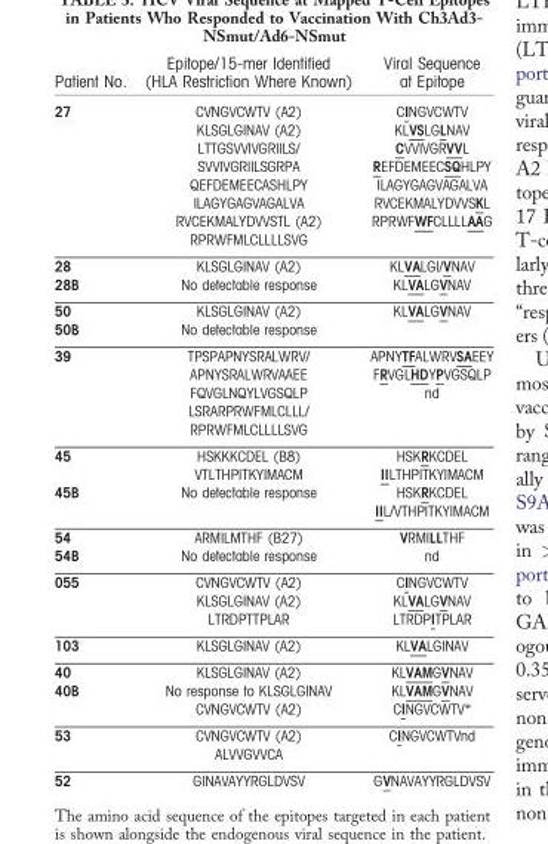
<table><thead><tr><td>Patient No.</td><td>Epitope/15-mer Identified (HLA Restriction Where Known)</td><td>Viral Sequence at Epitope</td></tr></thead><tbody><tr><td>27</td><td>CVNGVCWTV (A2) KLSGLGINAV (A2) LTTGSVVIVGRIILS/ SVVIVGRIILSGRPA QEFDEMEECASHLPY ILAGYGAGVAGALVA RVCEKMALYDVVSTL (A2) RPRWFMLCLLLLSVG</td><td>CINGVCWTV KLVSLGLNAV CVVIVGRVVL REFDEMEECSQHLPY ILAGYGAGVAGALVA RVCEKMALYDVVSKL RPRWFWFCLLLLAAG</td></tr><tr><td>28</td><td>KLSGLGINAV (A2)</td><td>KLVALGI/VNAV</td></tr><tr><td>28B</td><td>No detectable response</td><td>KLVALGVNAV</td></tr><tr><td>50</td><td>KLSGLGINAV (A2)</td><td>KLVALGVNAV</td></tr><tr><td>50B</td><td>No detectable response</td><td></td></tr><tr><td>39</td><td>TPSPAPNYSRALWRV/ APNYSRALWRVAAEE FQVGLNQYLVGSQLP LSRARPRWFMLCLLL/ RPRWFMLCLLLLSVG</td><td>APNYTFALWRVSAEEY FRVGLHDYPVGSQLP nd</td></tr><tr><td>45</td><td>HSKKKCDEL (B8) VTLTHPITKYIMACM</td><td>HSKRKCDEL IILTHPITKYIMACM</td></tr><tr><td>45B</td><td>No detectable response</td><td>HSKRKCDEL IIL/VTHPITKYIMACM</td></tr><tr><td>54</td><td>ARMILMTHF (B27)</td><td>VRMILLTHF</td></tr><tr><td>54B</td><td>No detectable response</td><td>nd</td></tr><tr><td>055</td><td>CVNGVCWTV (A2) KLSGLGINAV (A2) LTRDPTTPLAR</td><td>CINGVCWTV KLVALGVNAV LTRDPITPLAR</td></tr><tr><td>103</td><td>KLSGLGINAV (A2)</td><td>KLVALGINAV</td></tr><tr><td>40</td><td>KLSGLGINAV (A2)</td><td>KLVAMGVNAV</td></tr><tr><td>40B</td><td>No response to KLSGLGINAV CVNGVCWTV (A2)</td><td>KLVAMGVNAV CINGVCWTV*</td></tr><tr><td>53</td><td>CVNGVCWTV (A2) ALVVGVVCA</td><td>CINGVCWTVnd</td></tr><tr><td>52</td><td>GINAVAYYRGLDVSV</td><td>GVNAVAYYRGLDVSV</td></tr></tbody></table>